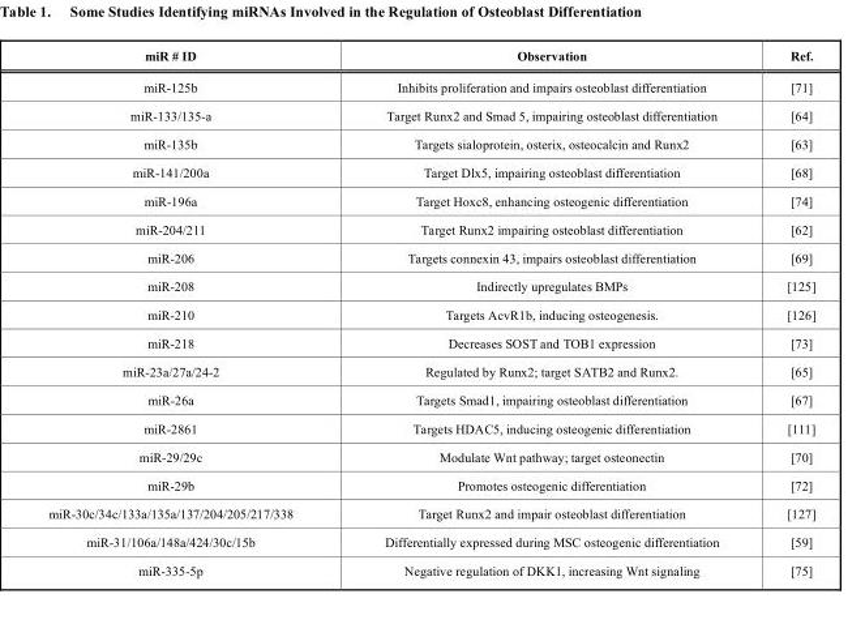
<table><thead><tr><td>miR # ID</td><td>Observation</td><td>Ref.</td></tr></thead><tbody><tr><td>miR-125b</td><td>Inhibits proliferation and impairs osteoblast differentiation</td><td>[71]</td></tr><tr><td>miR-133/135-a</td><td>Target Runx2 and Smad 5, impairing osteoblast differentiation</td><td>[64]</td></tr><tr><td>miR-135b</td><td>Targets sialoprotein, osterix, osteocalcin and Runx2</td><td>[63]</td></tr><tr><td>miR-141/200a</td><td>Target Dlx5, impairing osteoblast differentiation</td><td>[68]</td></tr><tr><td>miR-196a</td><td>Target Hoxc8, enhancing osteogenic differentiation</td><td>[74]</td></tr><tr><td>miR-204/211</td><td>Target Runx2 impairing osteoblast differentiation</td><td>[62]</td></tr><tr><td>miR-206</td><td>Targets connexin 43, impairs osteoblast differentiation</td><td>[69]</td></tr><tr><td>miR-208</td><td>Indirectly upregulates BMPs</td><td>[125]</td></tr><tr><td>miR-210</td><td>Targets AcvR1b, inducing osteogenesis.</td><td>[126]</td></tr><tr><td>miR-218</td><td>Decreases SOST and TOB1 expression</td><td>[73]</td></tr><tr><td>miR-23a/27a/24-2</td><td>Regulated by Runx2; target SATB2 and Runx2.</td><td>[65]</td></tr><tr><td>miR-26a</td><td>Targets Smad1, impairing osteoblast differentiation</td><td>[67]</td></tr><tr><td>miR-2861</td><td>Targets HDAC5, inducing osteogenic differentiation</td><td>[111]</td></tr><tr><td>miR-29/29c</td><td>Modulate Wnt pathway; target osteonectin</td><td>[70]</td></tr><tr><td>miR-29b</td><td>Promotes osteogenic differentiation</td><td>[72]</td></tr><tr><td>miR-30c/34c/133a/135a/137/204/205/217/338</td><td>Target Runx2 and impair osteoblast differentiation</td><td>[127]</td></tr><tr><td>miR-31/106a/148a/424/30c/15b</td><td>Differentially expressed during MSC osteogenic differentiation</td><td>[59]</td></tr><tr><td>miR-335-5p</td><td>Negative regulation of DKK1, increasing Wnt signaling</td><td>[75]</td></tr></tbody></table>